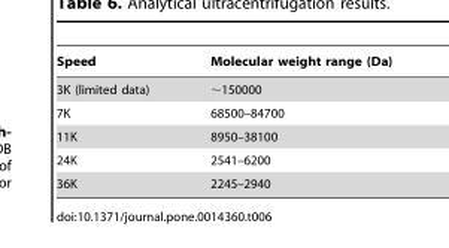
<table><thead><tr><td>Speed</td><td>Molecular weight range (Da)</td></tr></thead><tbody><tr><td>3K (limited data)</td><td>∼150000</td></tr><tr><td>7K</td><td>68500–84700</td></tr><tr><td>11K</td><td>8950–38100</td></tr><tr><td>24K</td><td>2541–6200</td></tr><tr><td>36K</td><td>2245–2940</td></tr></tbody></table>